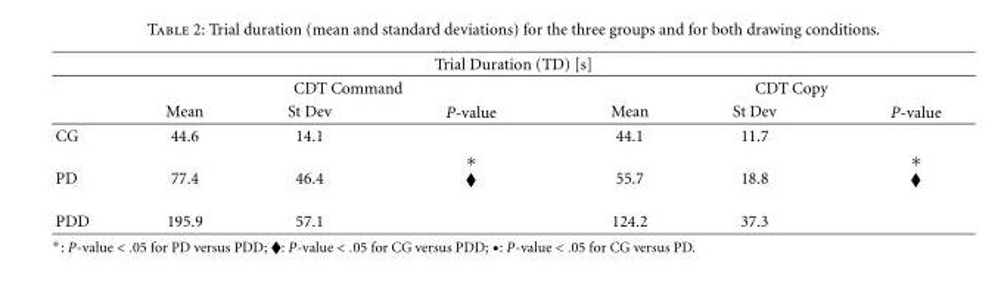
<table><thead><tr><td colspan="7">Trial Duration (TD) [s]</td></tr><tr><td rowspan="2"></td><td colspan="3">CDT Command</td><td colspan="3">CDT Copy</td></tr><tr><td>Mean</td><td>St Dev</td><td>P-value</td><td>Mean</td><td>St Dev</td><td>P-value</td></tr></thead><tbody><tr><td>CG</td><td>44.6</td><td>14.1</td><td></td><td>44.1</td><td>11.7</td><td></td></tr><tr><td>PD</td><td>77.4</td><td>46.4</td><td>∗ ♦</td><td>55.7</td><td>18.8</td><td>∗ ♦</td></tr><tr><td>PDD</td><td>195.9</td><td>57.1</td><td></td><td>124.2</td><td>37.3</td><td></td></tr></tbody></table>